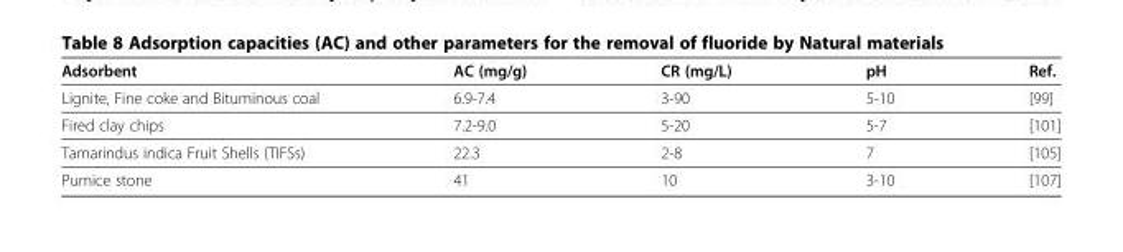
<table><thead><tr><td>Adsorbent</td><td>AC (mg/g)</td><td>CR (mg/L)</td><td>pH</td><td>Ref.</td></tr></thead><tbody><tr><td>Lignite, Fine coke and Bituminous coal</td><td>6.9-7.4</td><td>3-90</td><td>5-10</td><td>[99]</td></tr><tr><td>Fired clay chips</td><td>7.2-9.0</td><td>5-20</td><td>5-7</td><td>[101]</td></tr><tr><td>Tamarindus indica Fruit Shells (TIFSs)</td><td>22.3</td><td>2-8</td><td>7</td><td>[105]</td></tr><tr><td>Pumice stone</td><td>41</td><td>10</td><td>3-10</td><td>[107]</td></tr></tbody></table>